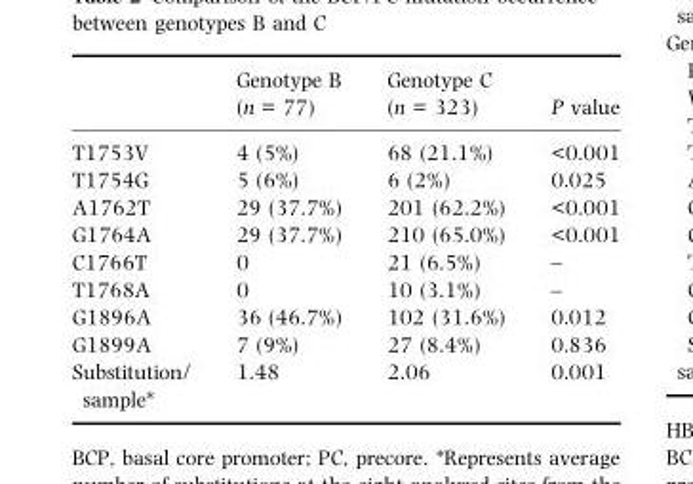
<table><thead><tr><td></td><td>Genotype B (n = 77)</td><td>Genotype C (n = 323)</td><td>P value</td></tr></thead><tbody><tr><td>T1753V</td><td>4 (5%)</td><td>68 (21.1%)</td><td>&lt;0.001</td></tr><tr><td>T1754G</td><td>5 (6%)</td><td>6 (2%)</td><td>0.025</td></tr><tr><td>A1762T</td><td>29 (37.7%)</td><td>201 (62.2%)</td><td>&lt;0.001</td></tr><tr><td>G1764A</td><td>29 (37.7%)</td><td>210 (65.0%)</td><td>&lt;0.001</td></tr><tr><td>C1766T</td><td>0</td><td>21 (6.5%)</td><td>–</td></tr><tr><td>T1768A</td><td>0</td><td>10 (3.1%)</td><td>–</td></tr><tr><td>G1896A</td><td>36 (46.7%)</td><td>102 (31.6%)</td><td>0.012</td></tr><tr><td>G1899A</td><td>7 (9%)</td><td>27 (8.4%)</td><td>0.836</td></tr><tr><td>Substitution/ sample*</td><td>1.48</td><td>2.06</td><td>0.001</td></tr></tbody></table>